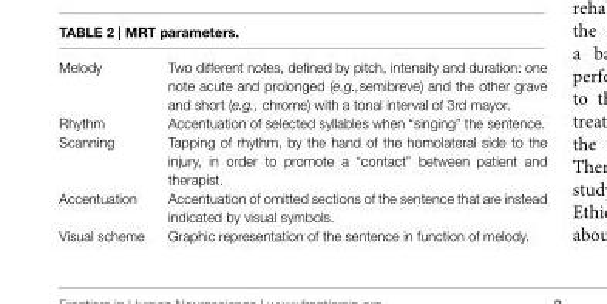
<table><tbody><tr><td>Melody</td><td>Two different notes, defined by pitch, intensity and duration: one note acute and prolonged (e.g.,semibreve) and the other grave and short (e.g., chrome) with a tonal interval of 3rd mayor.</td></tr><tr><td>Rhythm</td><td>Accentuation of selected syllables when “singing” the sentence.</td></tr><tr><td>Scanning</td><td>Tapping of rhythm, by the hand of the homolateral side to the injury, in order to promote a “contact” between patient and therapist.</td></tr><tr><td>Accentuation</td><td>Accentuation of omitted sections of the sentence that are instead indicated by visual symbols.</td></tr><tr><td>Visual scheme</td><td>Graphic representation of the sentence in function of melody.</td></tr></tbody></table>